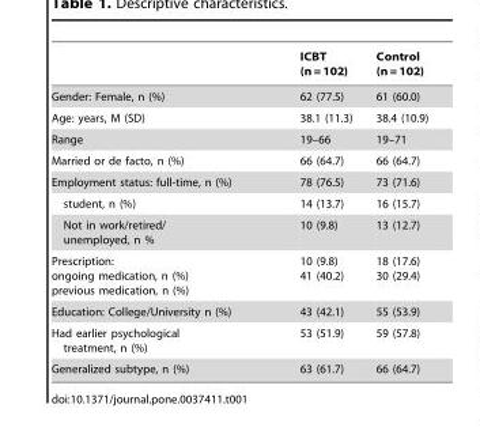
<table><thead><tr><td></td><td>ICBT (n = 102)</td><td>Control (n = 102)</td></tr></thead><tbody><tr><td>Gender: Female, n (%)</td><td>62 (77.5)</td><td>61 (60.0)</td></tr><tr><td>Age: years, M (SD)</td><td>38.1 (11.3)</td><td>38.4 (10.9)</td></tr><tr><td>Range</td><td>19–66</td><td>19–71</td></tr><tr><td>Married or de facto, n (%)</td><td>66 (64.7)</td><td>66 (64.7)</td></tr><tr><td>Employment status: full-time, n (%)</td><td>78 (76.5)</td><td>73 (71.6)</td></tr><tr><td>student, n (%)</td><td>14 (13.7)</td><td>16 (15.7)</td></tr><tr><td>Not in work/retired/ unemployed, n %</td><td>10 (9.8)</td><td>13 (12.7)</td></tr><tr><td>Prescription: ongoing medication, n (%) previous medication, n (%)</td><td>10 (9.8) 41 (40.2)</td><td>18 (17.6) 30 (29.4)</td></tr><tr><td>Education: College/University n (%)</td><td>43 (42.1)</td><td>55 (53.9)</td></tr><tr><td>Had earlier psychological treatment, n (%)</td><td>53 (51.9)</td><td>59 (57.8)</td></tr><tr><td>Generalized subtype, n (%)</td><td>63 (61.7)</td><td>66 (64.7)</td></tr></tbody></table>